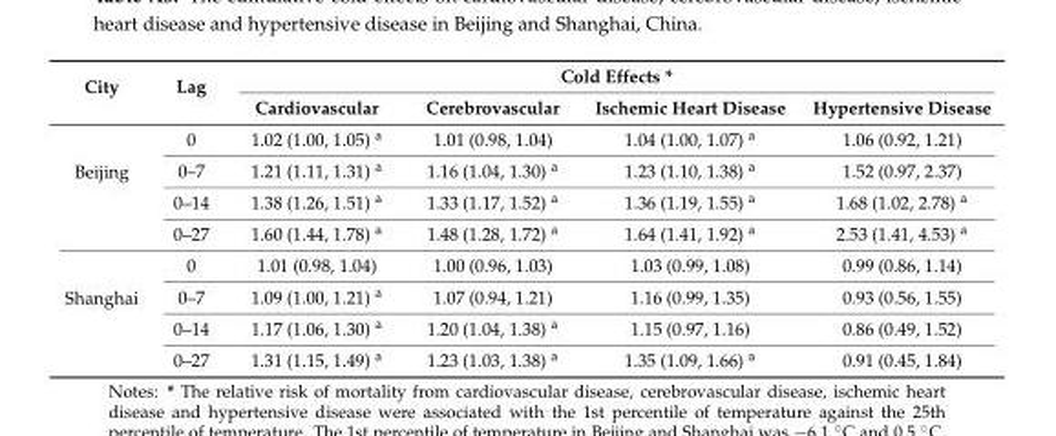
<table><thead><tr><td rowspan="2">City</td><td rowspan="2">Lag</td><td colspan="4">Cold Effects *</td></tr><tr><td>Cardiovascular</td><td>Cerebrovascular</td><td>Ischemic Heart Disease</td><td>Hypertensive Disease</td></tr></thead><tbody><tr><td rowspan="4">Beijing</td><td>0</td><td>1.02 (1.00, 1.05) <sup>a</sup></td><td>1.01 (0.98, 1.04)</td><td>1.04 (1.00, 1.07) <sup>a</sup></td><td>1.06 (0.92, 1.21)</td></tr><tr><td>0–7</td><td>1.21 (1.11, 1.31) <sup>a</sup></td><td>1.16 (1.04, 1.30) <sup>a</sup></td><td>1.23 (1.10, 1.38) <sup>a</sup></td><td>1.52 (0.97, 2.37)</td></tr><tr><td>0–14</td><td>1.38 (1.26, 1.51) <sup>a</sup></td><td>1.33 (1.17, 1.52) <sup>a</sup></td><td>1.36 (1.19, 1.55) <sup>a</sup></td><td>1.68 (1.02, 2.78) <sup>a</sup></td></tr><tr><td>0–27</td><td>1.60 (1.44, 1.78) <sup>a</sup></td><td>1.48 (1.28, 1.72) <sup>a</sup></td><td>1.64 (1.41, 1.92) <sup>a</sup></td><td>2.53 (1.41, 4.53) <sup>a</sup></td></tr><tr><td rowspan="4">Shanghai</td><td>0</td><td>1.01 (0.98, 1.04)</td><td>1.00 (0.96, 1.03)</td><td>1.03 (0.99, 1.08)</td><td>0.99 (0.86, 1.14)</td></tr><tr><td>0–7</td><td>1.09 (1.00, 1.21) <sup>a</sup></td><td>1.07 (0.94, 1.21)</td><td>1.16 (0.99, 1.35)</td><td>0.93 (0.56, 1.55)</td></tr><tr><td>0–14</td><td>1.17 (1.06, 1.30) <sup>a</sup></td><td>1.20 (1.04, 1.38) <sup>a</sup></td><td>1.15 (0.97, 1.16)</td><td>0.86 (0.49, 1.52)</td></tr><tr><td>0–27</td><td>1.31 (1.15, 1.49) <sup>a</sup></td><td>1.23 (1.03, 1.38) <sup>a</sup></td><td>1.35 (1.09, 1.66) <sup>a</sup></td><td>0.91 (0.45, 1.84)</td></tr></tbody></table>